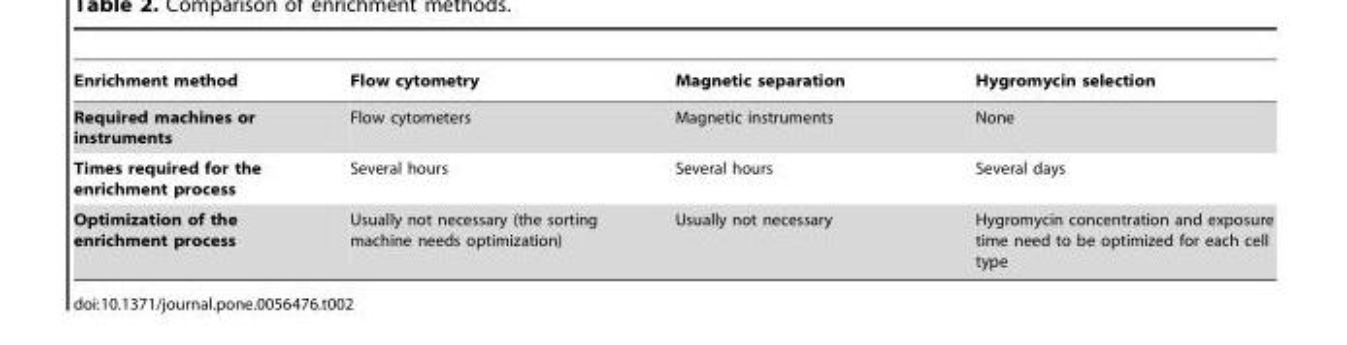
<table><thead><tr><td>Enrichment method</td><td>Flow cytometry</td><td>Magnetic separation</td><td>Hygromycin selection</td></tr></thead><tbody><tr><td>Required machines or instruments</td><td>Flow cytometers</td><td>Magnetic instruments</td><td>None</td></tr><tr><td>Times required for the enrichment process</td><td>Several hours</td><td>Several hours</td><td>Several days</td></tr><tr><td>Optimization of the enrichment process</td><td>Usually not necessary (the sorting machine needs optimization)</td><td>Usually not necessary</td><td>Hygromycin concentration and exposure time need to be optimized for each cell type</td></tr></tbody></table>